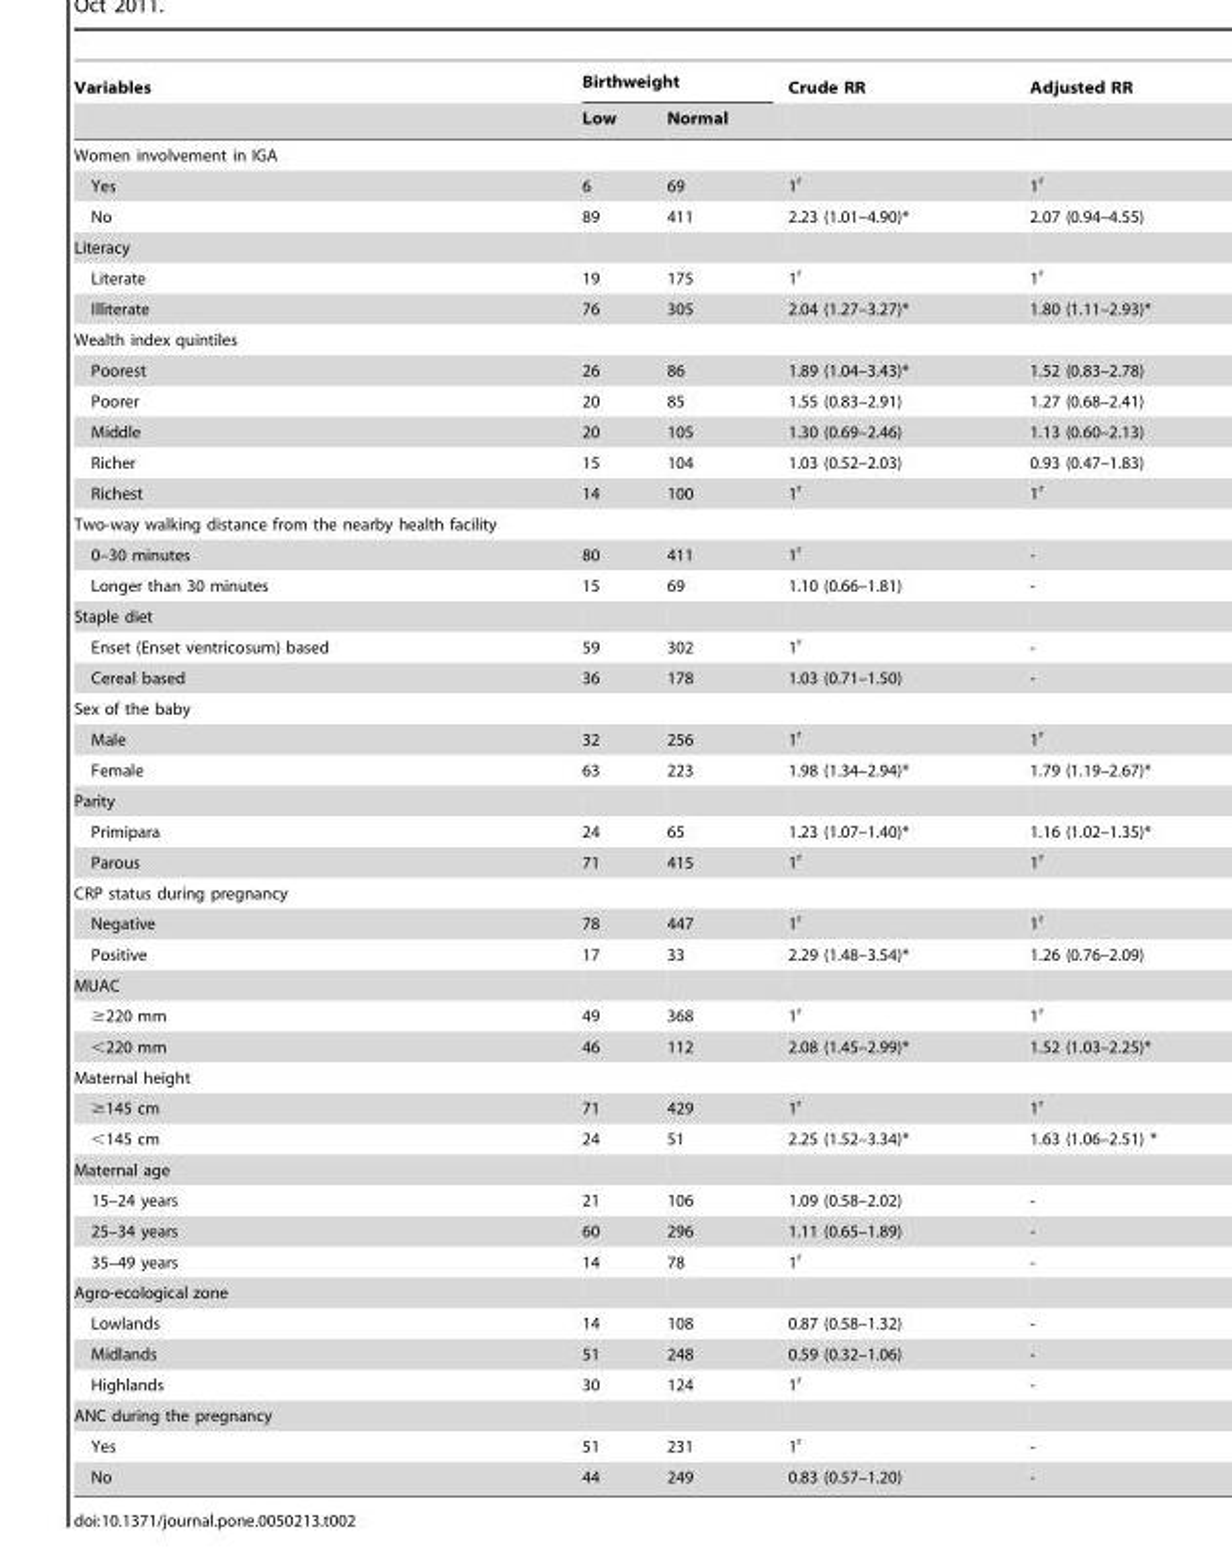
<table><thead><tr><td rowspan="2">Variables</td><td colspan="2">Birthweight</td><td rowspan="2">Crude RR</td><td rowspan="2">Adjusted RR</td></tr><tr><td>Low</td><td>Normal</td></tr></thead><tbody><tr><td colspan="5">Women involvement in IGA</td></tr><tr><td>Yes</td><td>6</td><td>69</td><td>1<sup>r</sup></td><td>1<sup>r</sup></td></tr><tr><td>No</td><td>89</td><td>411</td><td>2.23 (1.01–4.90)*</td><td>2.07 (0.94–4.55)</td></tr><tr><td colspan="5">Literacy</td></tr><tr><td>Literate</td><td>19</td><td>175</td><td>1<sup>r</sup></td><td>1<sup>r</sup></td></tr><tr><td>Illiterate</td><td>76</td><td>305</td><td>2.04 (1.27–3.27)*</td><td>1.80 (1.11–2.93)*</td></tr><tr><td colspan="5">Wealth index quintiles</td></tr><tr><td>Poorest</td><td>26</td><td>86</td><td>1.89 (1.04–3.43)*</td><td>1.52 (0.83–2.78)</td></tr><tr><td>Poorer</td><td>20</td><td>85</td><td>1.55 (0.83–2.91)</td><td>1.27 (0.68–2.41)</td></tr><tr><td>Middle</td><td>20</td><td>105</td><td>1.30 (0.69–2.46)</td><td>1.13 (0.60–2.13)</td></tr><tr><td>Richer</td><td>15</td><td>104</td><td>1.03 (0.52–2.03)</td><td>0.93 (0.47–1.83)</td></tr><tr><td>Richest</td><td>14</td><td>100</td><td>1<sup>r</sup></td><td>1<sup>r</sup></td></tr><tr><td colspan="5">Two-way walking distance from the nearby health facility</td></tr><tr><td>0–30 minutes</td><td>80</td><td>411</td><td>1<sup>r</sup></td><td>-</td></tr><tr><td>Longer than 30 minutes</td><td>15</td><td>69</td><td>1.10 (0.66–1.81)</td><td>-</td></tr><tr><td colspan="5">Staple diet</td></tr><tr><td>Enset (Enset ventricosum) based</td><td>59</td><td>302</td><td>1<sup>r</sup></td><td>-</td></tr><tr><td>Cereal based</td><td>36</td><td>178</td><td>1.03 (0.71–1.50)</td><td>-</td></tr><tr><td colspan="5">Sex of the baby</td></tr><tr><td>Male</td><td>32</td><td>256</td><td>1<sup>r</sup></td><td>1<sup>r</sup></td></tr><tr><td>Female</td><td>63</td><td>223</td><td>1.98 (1.34–2.94)*</td><td>1.79 (1.19–2.67)*</td></tr><tr><td colspan="5">Parity</td></tr><tr><td>Primipara</td><td>24</td><td>65</td><td>1.23 (1.07–1.40)*</td><td>1.16 (1.02–1.35)*</td></tr><tr><td>Parous</td><td>71</td><td>415</td><td>1<sup>r</sup></td><td>1<sup>r</sup></td></tr><tr><td colspan="5">CRP status during pregnancy</td></tr><tr><td>Negative</td><td>78</td><td>447</td><td>1<sup>r</sup></td><td>1<sup>r</sup></td></tr><tr><td>Positive</td><td>17</td><td>33</td><td>2.29 (1.48–3.54)*</td><td>1.26 (0.76–2.09)</td></tr><tr><td colspan="5">MUAC</td></tr><tr><td>≥220 mm</td><td>49</td><td>368</td><td>1<sup>r</sup></td><td>1<sup>r</sup></td></tr><tr><td>&lt;220 mm</td><td>46</td><td>112</td><td>2.08 (1.45–2.99)*</td><td>1.52 (1.03–2.25)*</td></tr><tr><td colspan="5">Maternal height</td></tr><tr><td>≥145 cm</td><td>71</td><td>429</td><td>1<sup>r</sup></td><td>1<sup>r</sup></td></tr><tr><td>&lt;145 cm</td><td>24</td><td>51</td><td>2.25 (1.52–3.34)*</td><td>1.63 (1.06–2.51) *</td></tr><tr><td colspan="5">Maternal age</td></tr><tr><td>15–24 years</td><td>21</td><td>106</td><td>1.09 (0.58–2.02)</td><td>-</td></tr><tr><td>25–34 years</td><td>60</td><td>296</td><td>1.11 (0.65–1.89)</td><td>-</td></tr><tr><td>35–49 years</td><td>14</td><td>78</td><td>1<sup>r</sup></td><td>-</td></tr><tr><td colspan="5">Agro-ecological zone</td></tr><tr><td>Lowlands</td><td>14</td><td>108</td><td>0.87 (0.58–1.32)</td><td>-</td></tr><tr><td>Midlands</td><td>51</td><td>248</td><td>0.59 (0.32–1.06)</td><td>-</td></tr><tr><td>Highlands</td><td>30</td><td>124</td><td>1<sup>r</sup></td><td>-</td></tr><tr><td colspan="5">ANC during the pregnancy</td></tr><tr><td>Yes</td><td>51</td><td>231</td><td>1<sup>r</sup></td><td>-</td></tr><tr><td>No</td><td>44</td><td>249</td><td>0.83 (0.57–1.20)</td><td>-</td></tr></tbody></table>